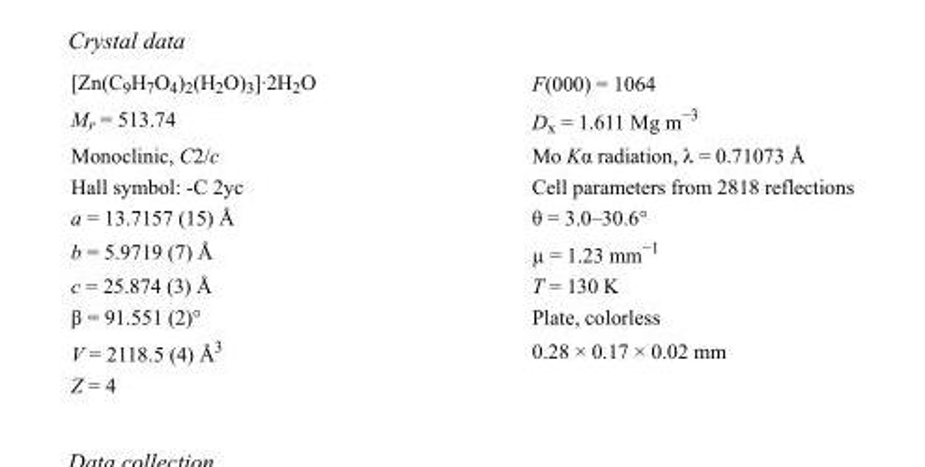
<table><tbody><tr><td>[Zn(C<sub>9</sub>H<sub>7</sub>O<sub>4</sub>)<sub>2</sub>(H<sub>2</sub>O)<sub>3</sub>]·2H<sub>2</sub>O</td><td>F(000) = 1064</td></tr><tr><td>M<sub>r</sub> = 513.74</td><td>D<sub>x</sub> = 1.611 Mg m<sup>−3</sup></td></tr><tr><td>Monoclinic, C2/c</td><td>Mo Kα radiation, λ = 0.71073 Å</td></tr><tr><td>Hall symbol: -C 2yc</td><td>Cell parameters from 2818 reflections</td></tr><tr><td>a = 13.7157 (15) Å</td><td>θ = 3.0–30.6°</td></tr><tr><td>b = 5.9719 (7) Å</td><td>µ = 1.23 mm<sup>−1</sup></td></tr><tr><td>c = 25.874 (3) Å</td><td>T = 130 K</td></tr><tr><td>β = 91.551 (2)°</td><td>Plate, colorless</td></tr><tr><td>V = 2118.5 (4) Å<sup>3</sup></td><td>0.28 × 0.17 × 0.02 mm</td></tr><tr><td>Z = 4</td><td></td></tr></tbody></table>